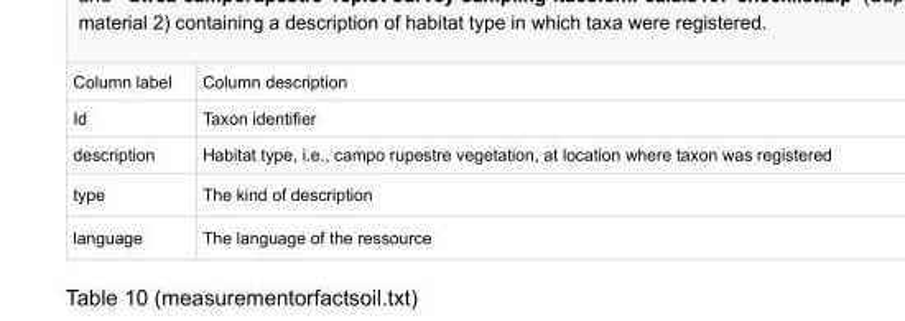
<table><tbody><tr><td>Column label</td><td>Column description</td></tr><tr><td>Id</td><td>Taxon identifier</td></tr><tr><td>description</td><td>Habitat type, i.e., campo rupestre vegetation, at location where taxon was registered</td></tr><tr><td>type</td><td>The kind of description</td></tr><tr><td>language</td><td>The language of the ressource</td></tr></tbody></table>